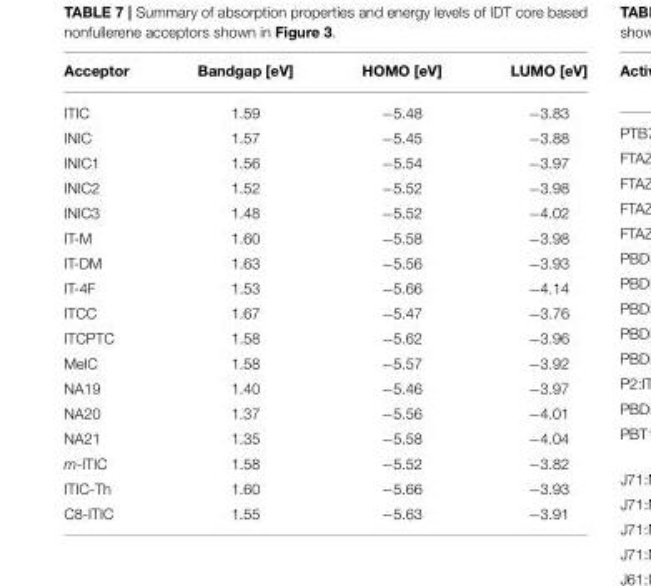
<table><thead><tr><td>Acceptor</td><td>Bandgap [eV]</td><td>HOMO [eV]</td><td>LUMO [eV]</td></tr></thead><tbody><tr><td>ITIC</td><td>1.59</td><td>−5.48</td><td>−3.83</td></tr><tr><td>INIC</td><td>1.57</td><td>−5.45</td><td>−3.88</td></tr><tr><td>INIC1</td><td>1.56</td><td>−5.54</td><td>−3.97</td></tr><tr><td>INIC2</td><td>1.52</td><td>−5.52</td><td>−3.98</td></tr><tr><td>INIC3</td><td>1.48</td><td>−5.52</td><td>−4.02</td></tr><tr><td>IT-M</td><td>1.60</td><td>−5.58</td><td>−3.98</td></tr><tr><td>IT-DM</td><td>1.63</td><td>−5.56</td><td>−3.93</td></tr><tr><td>IT-4F</td><td>1.53</td><td>−5.66</td><td>−4.14</td></tr><tr><td>ITCC</td><td>1.67</td><td>−5.47</td><td>−3.76</td></tr><tr><td>ITCPTC</td><td>1.58</td><td>−5.62</td><td>−3.96</td></tr><tr><td>MeIC</td><td>1.58</td><td>−5.57</td><td>−3.92</td></tr><tr><td>NA19</td><td>1.40</td><td>−5.46</td><td>−3.97</td></tr><tr><td>NA20</td><td>1.37</td><td>−5.56</td><td>−4.01</td></tr><tr><td>NA21</td><td>1.35</td><td>−5.58</td><td>−4.04</td></tr><tr><td>m-ITIC</td><td>1.58</td><td>−5.52</td><td>−3.82</td></tr><tr><td>ITIC-Th</td><td>1.60</td><td>−5.66</td><td>−3.93</td></tr><tr><td>C8-ITIC</td><td>1.55</td><td>−5.63</td><td>−3.91</td></tr></tbody></table>